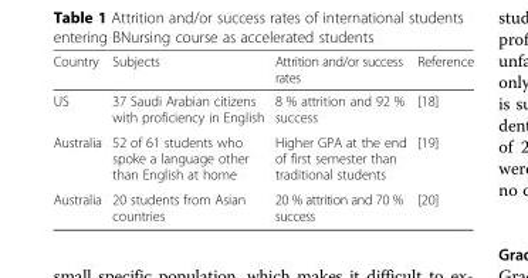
<table><thead><tr><td>Country</td><td>Subjects</td><td>Attrition and/or success rates</td><td>Reference</td></tr></thead><tbody><tr><td>US</td><td>37 Saudi Arabian citizens with proficiency in English</td><td>8 % attrition and 92 % success</td><td>[18]</td></tr><tr><td>Australia</td><td>52 of 61 students who spoke a language other than English at home</td><td>Higher GPA at the end of first semester than traditional students</td><td>[19]</td></tr><tr><td>Australia</td><td>20 students from Asian countries</td><td>20 % attrition and 70 % success</td><td>[20]</td></tr></tbody></table>